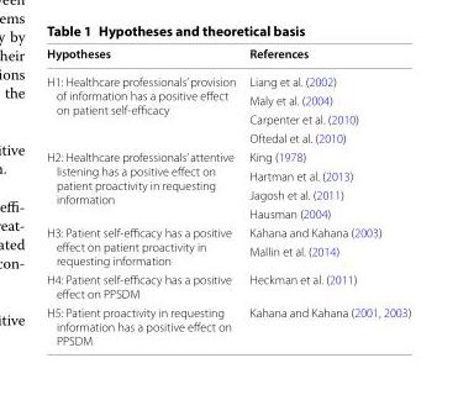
<table><thead><tr><td>Hypotheses</td><td>References</td></tr></thead><tbody><tr><td rowspan="4">H1: Healthcare professionals’ provision of information has a positive effect on patient self‑efficacy</td><td>Liang et al. (2002)</td></tr><tr><td>Maly et al. (2004)</td></tr><tr><td>Carpenter et al. (2010)</td></tr><tr><td>Oftedal et al. (2010)</td></tr><tr><td rowspan="4">H2: Healthcare professionals’ attentive listening has a positive effect on patient proactivity in requesting information</td><td>King (1978)</td></tr><tr><td>Hartman et al. (2013)</td></tr><tr><td>Jagosh et al. (2011)</td></tr><tr><td>Hausman (2004)</td></tr><tr><td rowspan="2">H3: Patient self‑efficacy has a positive effect on patient proactivity in requesting information</td><td>Kahana and Kahana (2003)</td></tr><tr><td>Mallin et al. (2014)</td></tr><tr><td>H4: Patient self‑efficacy has a positive effect on PPSDM</td><td>Heckman et al. (2011)</td></tr><tr><td>H5: Patient proactivity in requesting information has a positive effect on PPSDM</td><td>Kahana and Kahana (2001, 2003)</td></tr></tbody></table>